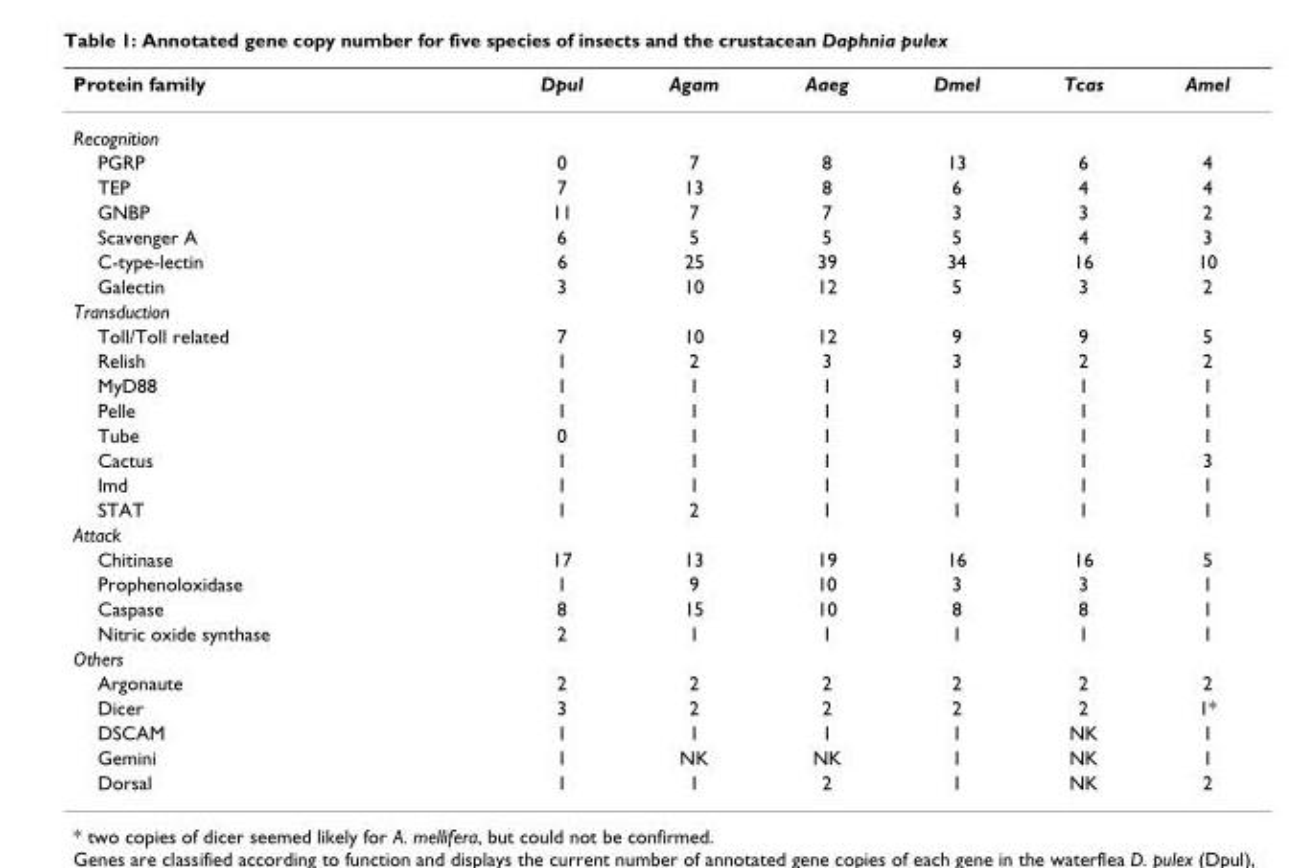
<table><thead><tr><td>Protein family</td><td>Dpul</td><td>Agam</td><td>Aaeg</td><td>Dmel</td><td>Tcas</td><td>Amel</td></tr></thead><tbody><tr><td colspan="7">Recognition</td></tr><tr><td>PGRP</td><td>0</td><td>7</td><td>8</td><td>13</td><td>6</td><td>4</td></tr><tr><td>TEP</td><td>7</td><td>13</td><td>8</td><td>6</td><td>4</td><td>4</td></tr><tr><td>GNBP</td><td>11</td><td>7</td><td>7</td><td>3</td><td>3</td><td>2</td></tr><tr><td>Scavenger A</td><td>6</td><td>5</td><td>5</td><td>5</td><td>4</td><td>3</td></tr><tr><td>C-type-lectin</td><td>6</td><td>25</td><td>39</td><td>34</td><td>16</td><td>10</td></tr><tr><td>Galectin</td><td>3</td><td>10</td><td>12</td><td>5</td><td>3</td><td>2</td></tr><tr><td colspan="7">Transduction</td></tr><tr><td>Toll/Toll related</td><td>7</td><td>10</td><td>12</td><td>9</td><td>9</td><td>5</td></tr><tr><td>Relish</td><td>1</td><td>2</td><td>3</td><td>3</td><td>2</td><td>2</td></tr><tr><td>MyD88</td><td>1</td><td>1</td><td>1</td><td>1</td><td>1</td><td>1</td></tr><tr><td>Pelle</td><td>1</td><td>1</td><td>1</td><td>1</td><td>1</td><td>1</td></tr><tr><td>Tube</td><td>0</td><td>1</td><td>1</td><td>1</td><td>1</td><td>1</td></tr><tr><td>Cactus</td><td>1</td><td>1</td><td>1</td><td>1</td><td>1</td><td>3</td></tr><tr><td>Imd</td><td>1</td><td>1</td><td>1</td><td>1</td><td>1</td><td>1</td></tr><tr><td>STAT</td><td>1</td><td>2</td><td>1</td><td>1</td><td>1</td><td>1</td></tr><tr><td colspan="7">Attack</td></tr><tr><td>Chitinase</td><td>17</td><td>13</td><td>19</td><td>16</td><td>16</td><td>5</td></tr><tr><td>Prophenoloxidase</td><td>1</td><td>9</td><td>10</td><td>3</td><td>3</td><td>1</td></tr><tr><td>Caspase</td><td>8</td><td>15</td><td>10</td><td>8</td><td>8</td><td>1</td></tr><tr><td>Nitric oxide synthase</td><td>2</td><td>1</td><td>1</td><td>1</td><td>1</td><td>1</td></tr><tr><td colspan="7">Others</td></tr><tr><td>Argonaute</td><td>2</td><td>2</td><td>2</td><td>2</td><td>2</td><td>2</td></tr><tr><td>Dicer</td><td>3</td><td>2</td><td>2</td><td>2</td><td>2</td><td>1*</td></tr><tr><td>DSCAM</td><td>1</td><td>1</td><td>1</td><td>1</td><td>NK</td><td>1</td></tr><tr><td>Gemini</td><td>1</td><td>NK</td><td>NK</td><td>1</td><td>NK</td><td>1</td></tr><tr><td>Dorsal</td><td>1</td><td>1</td><td>2</td><td>1</td><td>NK</td><td>2</td></tr></tbody></table>